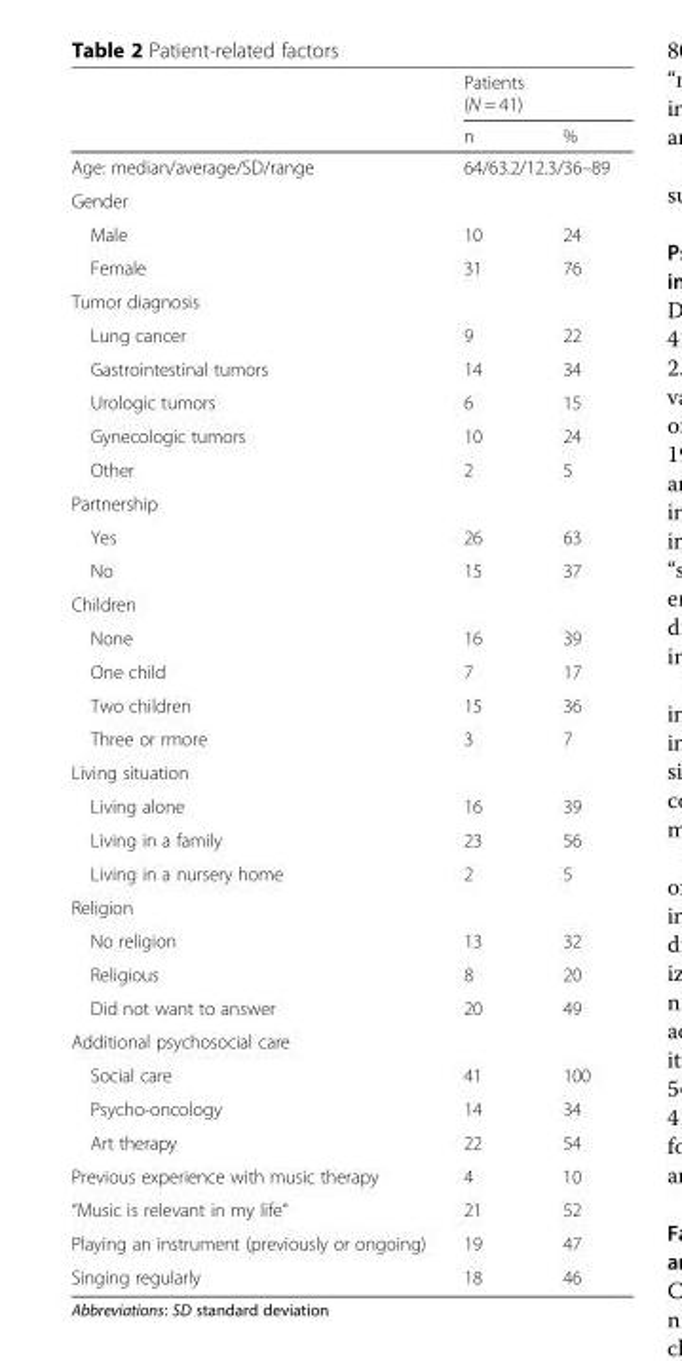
<table><thead><tr><td rowspan="2"></td><td colspan="2">Patients (N = 41)</td></tr><tr><td>n</td><td>%</td></tr></thead><tbody><tr><td>Age: median/average/SD/range</td><td colspan="2">64/63.2/12.3/36–89</td></tr><tr><td colspan="3">Gender</td></tr><tr><td>Male</td><td>10</td><td>24</td></tr><tr><td>Female</td><td>31</td><td>76</td></tr><tr><td colspan="3">Tumor diagnosis</td></tr><tr><td>Lung cancer</td><td>9</td><td>22</td></tr><tr><td>Gastrointestinal tumors</td><td>14</td><td>34</td></tr><tr><td>Urologic tumors</td><td>6</td><td>15</td></tr><tr><td>Gynecologic tumors</td><td>10</td><td>24</td></tr><tr><td>Other</td><td>2</td><td>5</td></tr><tr><td colspan="3">Partnership</td></tr><tr><td>Yes</td><td>26</td><td>63</td></tr><tr><td>No</td><td>15</td><td>37</td></tr><tr><td colspan="3">Children</td></tr><tr><td>None</td><td>16</td><td>39</td></tr><tr><td>One child</td><td>7</td><td>17</td></tr><tr><td>Two children</td><td>15</td><td>36</td></tr><tr><td>Three or rmore</td><td>3</td><td>7</td></tr><tr><td colspan="3">Living situation</td></tr><tr><td>Living alone</td><td>16</td><td>39</td></tr><tr><td>Living in a family</td><td>23</td><td>56</td></tr><tr><td>Living in a nursery home</td><td>2</td><td>5</td></tr><tr><td colspan="3">Religion</td></tr><tr><td>No religion</td><td>13</td><td>32</td></tr><tr><td>Religious</td><td>8</td><td>20</td></tr><tr><td>Did not want to answer</td><td>20</td><td>49</td></tr><tr><td colspan="3">Additional psychosocial care</td></tr><tr><td>Social care</td><td>41</td><td>100</td></tr><tr><td>Psycho-oncology</td><td>14</td><td>34</td></tr><tr><td>Art therapy</td><td>22</td><td>54</td></tr><tr><td>Previous experience with music therapy</td><td>4</td><td>10</td></tr><tr><td>“Music is relevant in my life”</td><td>21</td><td>52</td></tr><tr><td>Playing an instrument (previously or ongoing)</td><td>19</td><td>47</td></tr><tr><td>Singing regularly</td><td>18</td><td>46</td></tr></tbody></table>